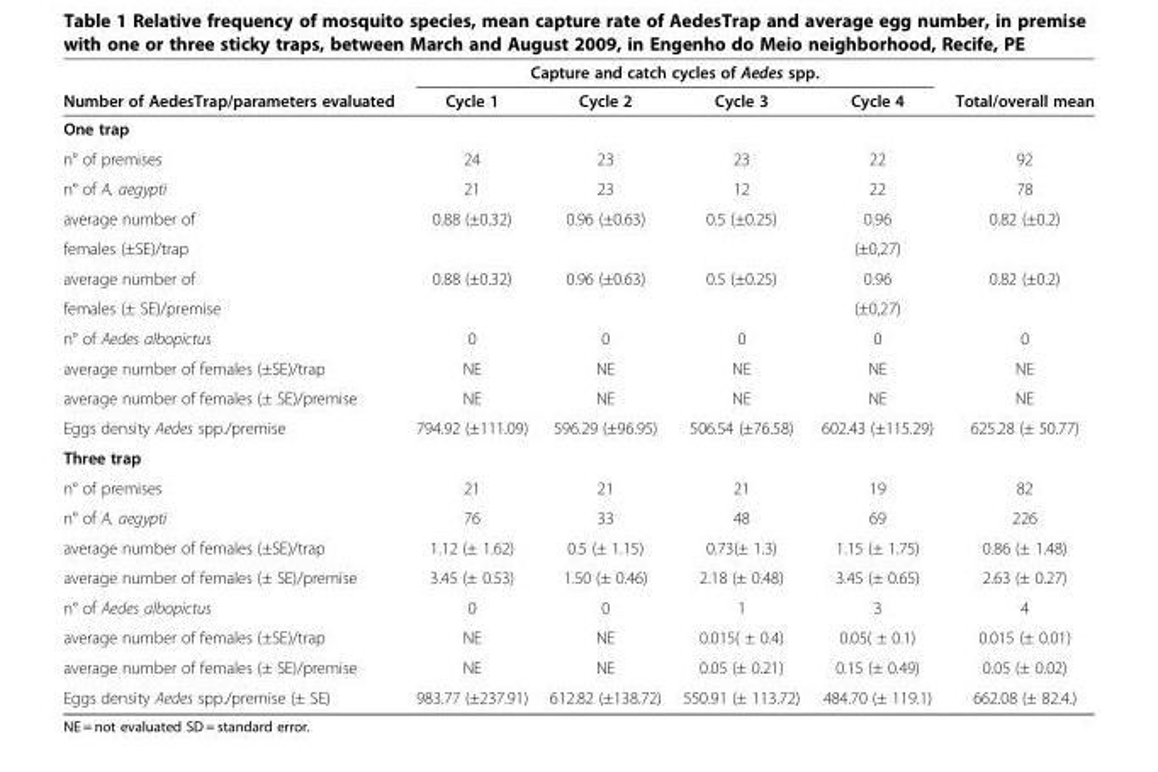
<table><thead><tr><td rowspan="2">Number of AedesTrap/parameters evaluated</td><td colspan="4">Capture and catch cycles of Aedes spp.</td><td rowspan="2">Total/overall mean</td></tr><tr><td>Cycle 1</td><td>Cycle 2</td><td>Cycle 3</td><td>Cycle 4</td></tr></thead><tbody><tr><td colspan="6">One trap</td></tr><tr><td>n° of premises</td><td>24</td><td>23</td><td>23</td><td>22</td><td>92</td></tr><tr><td>n° of A. aegypti</td><td>21</td><td>23</td><td>12</td><td>22</td><td>78</td></tr><tr><td>average number of</td><td>0.88 (±0.32)</td><td>0.96 (±0.63)</td><td>0.5 (±0.25)</td><td>0.96</td><td>0.82 (±0.2)</td></tr><tr><td>females (±SE)/trap</td><td></td><td></td><td></td><td>(±0,27)</td><td></td></tr><tr><td>average number of</td><td>0.88 (±0.32)</td><td>0.96 (±0.63)</td><td>0.5 (±0.25)</td><td>0.96</td><td>0.82 (±0.2)</td></tr><tr><td>females (± SE)/premise</td><td></td><td></td><td></td><td>(±0,27)</td><td></td></tr><tr><td>n° of Aedes albopictus</td><td>0</td><td>0</td><td>0</td><td>0</td><td>0</td></tr><tr><td>average number of females (±SE)/trap</td><td>NE</td><td>NE</td><td>NE</td><td>NE</td><td>NE</td></tr><tr><td>average number of females (± SE)/premise</td><td>NE</td><td>NE</td><td>NE</td><td>NE</td><td>NE</td></tr><tr><td>Eggs density Aedes spp./premise</td><td>794.92 (±111.09)</td><td>596.29 (±96.95)</td><td>506.54 (±76.58)</td><td>602.43 (±115.29)</td><td>625.28 (± 50.77)</td></tr><tr><td colspan="6">Three trap</td></tr><tr><td>n° of premises</td><td>21</td><td>21</td><td>21</td><td>19</td><td>82</td></tr><tr><td>n° of A. aegypti</td><td>76</td><td>33</td><td>48</td><td>69</td><td>226</td></tr><tr><td>average number of females (±SE)/trap</td><td>1.12 (± 1.62)</td><td>0.5 (± 1.15)</td><td>0.73(± 1.3)</td><td>1.15 (± 1.75)</td><td>0.86 (± 1.48)</td></tr><tr><td>average number of females (± SE)/premise</td><td>3.45 (± 0.53)</td><td>1.50 (± 0.46)</td><td>2.18 (± 0.48)</td><td>3.45 (± 0.65)</td><td>2.63 (± 0.27)</td></tr><tr><td>n° of Aedes albopictus</td><td>0</td><td>0</td><td>1</td><td>3</td><td>4</td></tr><tr><td>average number of females (±SE)/trap</td><td>NE</td><td>NE</td><td>0.015( ± 0.4)</td><td>0.05( ± 0.1)</td><td>0.015 (± 0.01)</td></tr><tr><td>average number of females (± SE)/premise</td><td>NE</td><td>NE</td><td>0.05 (± 0.21)</td><td>0.15 (± 0.49)</td><td>0.05 (± 0.02)</td></tr><tr><td>Eggs density Aedes spp./premise (± SE)</td><td>983.77 (±237.91)</td><td>612.82 (±138.72)</td><td>550.91 (± 113.72)</td><td>484.70 (± 119.1)</td><td>662.08 (± 82.4.)</td></tr></tbody></table>